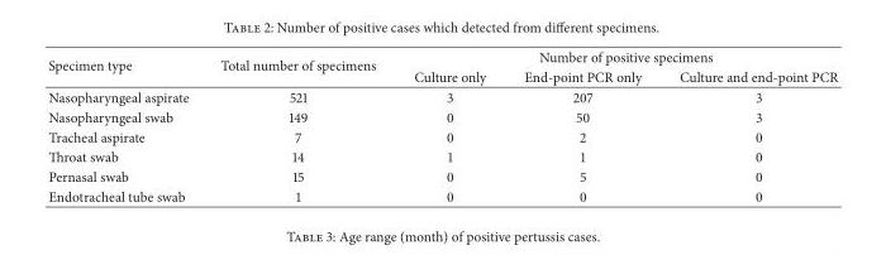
<table><thead><tr><td rowspan="2">Specimen type</td><td rowspan="2">Total number of specimens</td><td colspan="3">Number of positive specimens</td></tr><tr><td>Culture only</td><td>End-point PCR only</td><td>Culture and end-point PCR</td></tr></thead><tbody><tr><td>Nasopharyngeal aspirate</td><td>521</td><td>3</td><td>207</td><td>3</td></tr><tr><td>Nasopharyngeal swab</td><td>149</td><td>0</td><td>50</td><td>3</td></tr><tr><td>Tracheal aspirate</td><td>7</td><td>0</td><td>2</td><td>0</td></tr><tr><td>Throat swab</td><td>14</td><td>1</td><td>1</td><td>0</td></tr><tr><td>Pernasal swab</td><td>15</td><td>0</td><td>5</td><td>0</td></tr><tr><td>Endotracheal tube swab</td><td>1</td><td>0</td><td>0</td><td>0</td></tr></tbody></table>